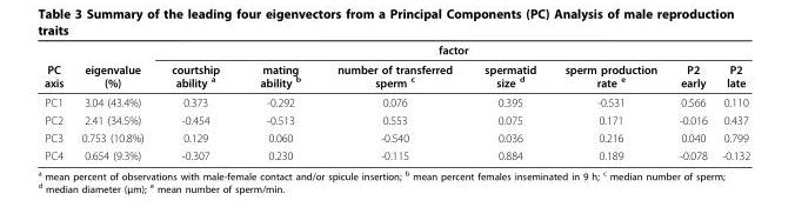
<table><thead><tr><td rowspan="2">PC axis</td><td rowspan="2">eigenvalue (%)</td><td colspan="7">factor</td></tr><tr><td>courtship ability <sup>a</sup></td><td>mating ability <sup>b</sup></td><td>number of transferred sperm <sup>c</sup></td><td>spermatid size <sup>d</sup></td><td>sperm production rate <sup>e</sup></td><td>P2 early</td><td>P2 late</td></tr></thead><tbody><tr><td>PC1</td><td>3.04 (43.4%)</td><td>0.373</td><td>-0.292</td><td>0.076</td><td>0.395</td><td>-0.531</td><td>0.566</td><td>0.110</td></tr><tr><td>PC2</td><td>2.41 (34.5%)</td><td>-0.454</td><td>-0.513</td><td>0.553</td><td>0.075</td><td>0.171</td><td>-0.016</td><td>0.437</td></tr><tr><td>PC3</td><td>0.753 (10.8%)</td><td>0.129</td><td>0.060</td><td>-0.540</td><td>0.036</td><td>0.216</td><td>0.040</td><td>0.799</td></tr><tr><td>PC4</td><td>0.654 (9.3%)</td><td>-0.307</td><td>0.230</td><td>-0.115</td><td>0.884</td><td>0.189</td><td>-0.078</td><td>-0.132</td></tr></tbody></table>